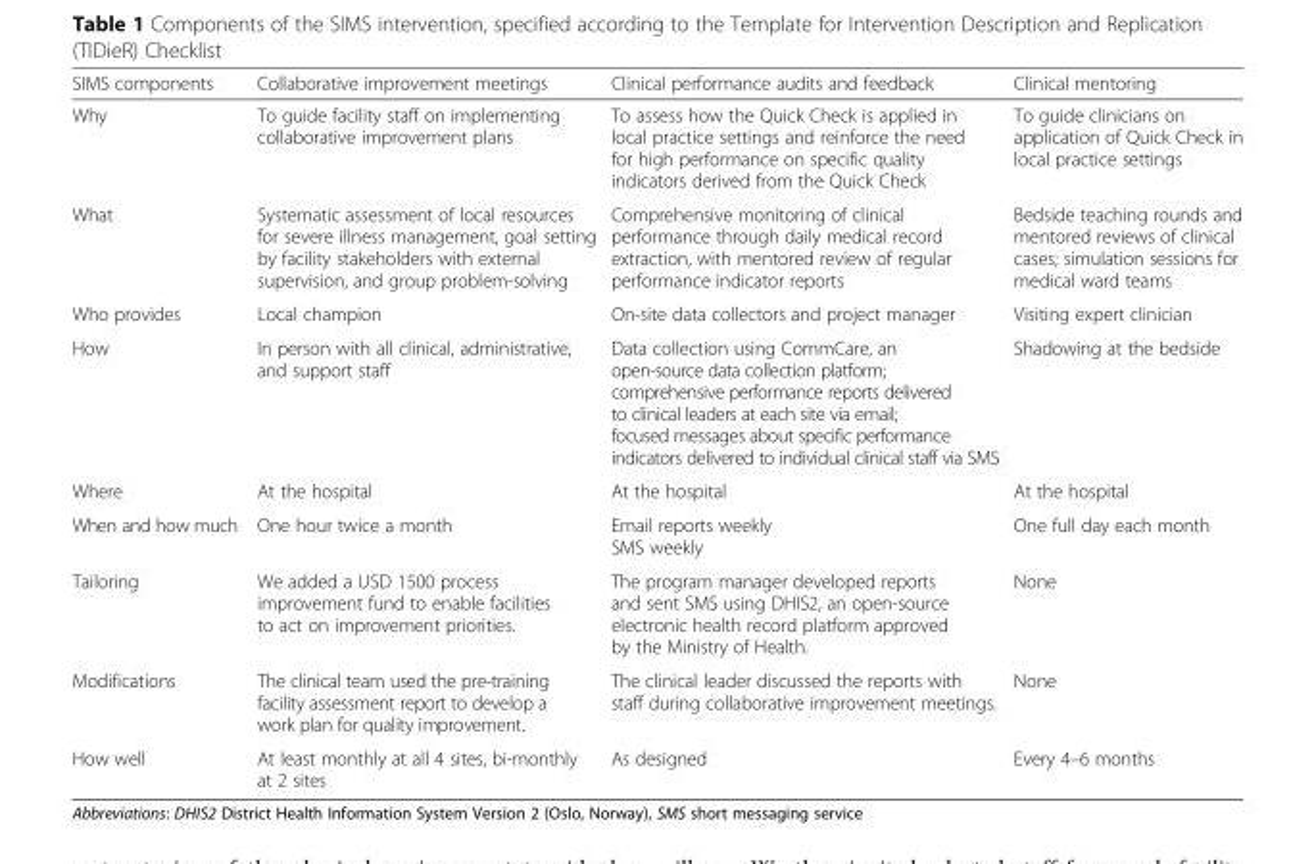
<table><thead><tr><td>SIMS components</td><td>Collaborative improvement meetings</td><td>Clinical performance audits and feedback</td><td>Clinical mentoring</td></tr></thead><tbody><tr><td>Why</td><td>To guide facility staff on implementing collaborative improvement plans</td><td>To assess how the Quick Check is applied in local practice settings and reinforce the need for high performance on specific quality indicators derived from the Quick Check</td><td>To guide clinicians on application of Quick Check in local practice settings</td></tr><tr><td>What</td><td>Systematic assessment of local resources for severe illness management, goal setting by facility stakeholders with external supervision, and group problem-solving</td><td>Comprehensive monitoring of clinical performance through daily medical record extraction, with mentored review of regular performance indicator reports</td><td>Bedside teaching rounds and mentored reviews of clinical cases; simulation sessions for medical ward teams</td></tr><tr><td>Who provides</td><td>Local champion</td><td>On-site data collectors and project manager</td><td>Visiting expert clinician</td></tr><tr><td>How</td><td>In person with all clinical, administrative, and support staff</td><td>Data collection using CommCare, an open-source data collection platform; comprehensive performance reports delivered to clinical leaders at each site via email; focused messages about specific performance indicators delivered to individual clinical staff via SMS</td><td>Shadowing at the bedside</td></tr><tr><td>Where</td><td>At the hospital</td><td>At the hospital</td><td>At the hospital</td></tr><tr><td>When and how much</td><td>One hour twice a month</td><td>Email reports weekly SMS weekly</td><td>One full day each month</td></tr><tr><td>Tailoring</td><td>We added a USD 1500 process improvement fund to enable facilities to act on improvement priorities.</td><td>The program manager developed reports and sent SMS using DHIS2, an open-source electronic health record platform approved by the Ministry of Health.</td><td>None</td></tr><tr><td>Modifications</td><td>The clinical team used the pre-training facility assessment report to develop a work plan for quality improvement.</td><td>The clinical leader discussed the reports with staff during collaborative improvement meetings.</td><td>None</td></tr><tr><td>How well</td><td>At least monthly at all 4 sites, bi-monthly at 2 sites</td><td>As designed</td><td>Every 4–6 months</td></tr></tbody></table>